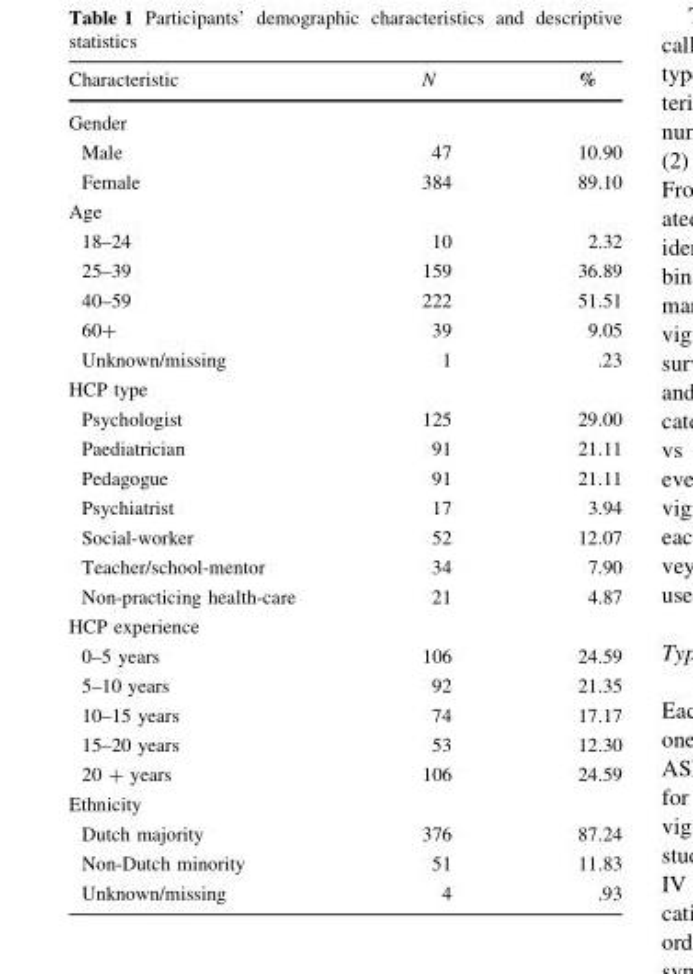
<table><thead><tr><td>Characteristic</td><td>N</td><td>%</td></tr></thead><tbody><tr><td colspan="3">Gender</td></tr><tr><td>Male</td><td>47</td><td>10.90</td></tr><tr><td>Female</td><td>384</td><td>89.10</td></tr><tr><td colspan="3">Age</td></tr><tr><td>18–24</td><td>10</td><td>2.32</td></tr><tr><td>25–39</td><td>159</td><td>36.89</td></tr><tr><td>40–59</td><td>222</td><td>51.51</td></tr><tr><td>60+</td><td>39</td><td>9.05</td></tr><tr><td>Unknown/missing</td><td>1</td><td>.23</td></tr><tr><td colspan="3">HCP type</td></tr><tr><td>Psychologist</td><td>125</td><td>29.00</td></tr><tr><td>Paediatrician</td><td>91</td><td>21.11</td></tr><tr><td>Pedagogue</td><td>91</td><td>21.11</td></tr><tr><td>Psychiatrist</td><td>17</td><td>3.94</td></tr><tr><td>Social-worker</td><td>52</td><td>12.07</td></tr><tr><td>Teacher/school-mentor</td><td>34</td><td>7.90</td></tr><tr><td>Non-practicing health-care</td><td>21</td><td>4.87</td></tr><tr><td colspan="3">HCP experience</td></tr><tr><td>0–5 years</td><td>106</td><td>24.59</td></tr><tr><td>5–10 years</td><td>92</td><td>21.35</td></tr><tr><td>10–15 years</td><td>74</td><td>17.17</td></tr><tr><td>15–20 years</td><td>53</td><td>12.30</td></tr><tr><td>20 + years</td><td>106</td><td>24.59</td></tr><tr><td colspan="3">Ethnicity</td></tr><tr><td>Dutch majority</td><td>376</td><td>87.24</td></tr><tr><td>Non-Dutch minority</td><td>51</td><td>11.83</td></tr><tr><td>Unknown/missing</td><td>4</td><td>.93</td></tr></tbody></table>